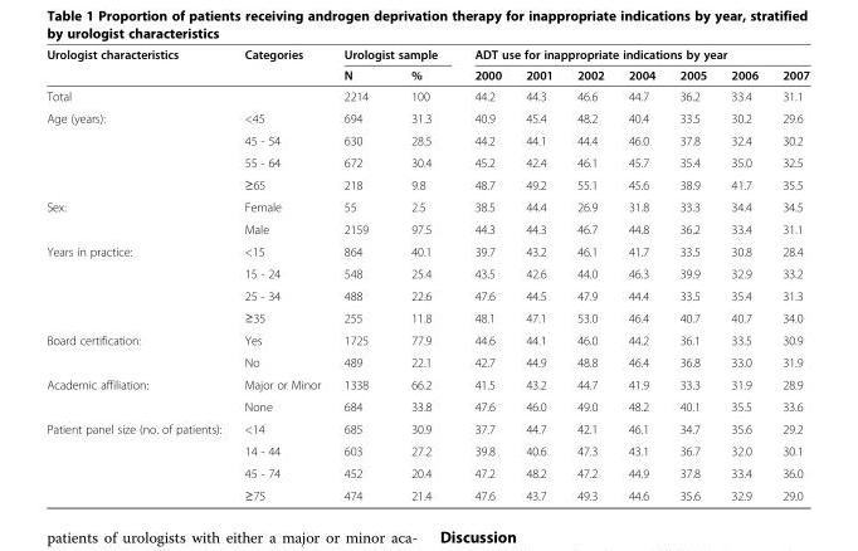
<table><thead><tr><td rowspan="2">Urologist characteristics</td><td rowspan="2">Categories</td><td colspan="2">Urologist sample</td><td colspan="7">ADT use for inappropriate indications by year</td></tr><tr><td>N</td><td>%</td><td>2000</td><td>2001</td><td>2002</td><td>2004</td><td>2005</td><td>2006</td><td>2007</td></tr></thead><tbody><tr><td>Total</td><td></td><td>2214</td><td>100</td><td>44.2</td><td>44.3</td><td>46.6</td><td>44.7</td><td>36.2</td><td>33.4</td><td>31.1</td></tr><tr><td rowspan="4">Age (years):</td><td>&lt;45</td><td>694</td><td>31.3</td><td>40.9</td><td>45.4</td><td>48.2</td><td>40.4</td><td>33.5</td><td>30.2</td><td>29.6</td></tr><tr><td>45 - 54</td><td>630</td><td>28.5</td><td>44.2</td><td>44.1</td><td>44.4</td><td>46.0</td><td>37.8</td><td>32.4</td><td>30.2</td></tr><tr><td>55 - 64</td><td>672</td><td>30.4</td><td>45.2</td><td>42.4</td><td>46.1</td><td>45.7</td><td>35.4</td><td>35.0</td><td>32.5</td></tr><tr><td>≥65</td><td>218</td><td>9.8</td><td>48.7</td><td>49.2</td><td>55.1</td><td>45.6</td><td>38.9</td><td>41.7</td><td>35.5</td></tr><tr><td rowspan="2">Sex:</td><td>Female</td><td>55</td><td>2.5</td><td>38.5</td><td>44.4</td><td>26.9</td><td>31.8</td><td>33.3</td><td>34.4</td><td>34.5</td></tr><tr><td>Male</td><td>2159</td><td>97.5</td><td>44.3</td><td>44.3</td><td>46.7</td><td>44.8</td><td>36.2</td><td>33.4</td><td>31.1</td></tr><tr><td rowspan="4">Years in practice:</td><td>&lt;15</td><td>864</td><td>40.1</td><td>39.7</td><td>43.2</td><td>46.1</td><td>41.7</td><td>33.5</td><td>30.8</td><td>28.4</td></tr><tr><td>15 - 24</td><td>548</td><td>25.4</td><td>43.5</td><td>42.6</td><td>44.0</td><td>46.3</td><td>39.9</td><td>32.9</td><td>33.2</td></tr><tr><td>25 - 34</td><td>488</td><td>22.6</td><td>47.6</td><td>44.5</td><td>47.9</td><td>44.4</td><td>33.5</td><td>35.4</td><td>31.3</td></tr><tr><td>≥35</td><td>255</td><td>11.8</td><td>48.1</td><td>47.1</td><td>53.0</td><td>46.4</td><td>40.7</td><td>40.7</td><td>34.0</td></tr><tr><td rowspan="2">Board certification:</td><td>Yes</td><td>1725</td><td>77.9</td><td>44.6</td><td>44.1</td><td>46.0</td><td>44.2</td><td>36.1</td><td>33.5</td><td>30.9</td></tr><tr><td>No</td><td>489</td><td>22.1</td><td>42.7</td><td>44.9</td><td>48.8</td><td>46.4</td><td>36.8</td><td>33.0</td><td>31.9</td></tr><tr><td rowspan="2">Academic affiliation:</td><td>Major or Minor</td><td>1338</td><td>66.2</td><td>41.5</td><td>43.2</td><td>44.7</td><td>41.9</td><td>33.3</td><td>31.9</td><td>28.9</td></tr><tr><td>None</td><td>684</td><td>33.8</td><td>47.6</td><td>46.0</td><td>49.0</td><td>48.2</td><td>40.1</td><td>35.5</td><td>33.6</td></tr><tr><td rowspan="4">Patient panel size (no. of patients):</td><td>&lt;14</td><td>685</td><td>30.9</td><td>37.7</td><td>44.7</td><td>42.1</td><td>46.1</td><td>34.7</td><td>35.6</td><td>29.2</td></tr><tr><td>14 - 44</td><td>603</td><td>27.2</td><td>39.8</td><td>40.6</td><td>47.3</td><td>43.1</td><td>36.7</td><td>32.0</td><td>30.1</td></tr><tr><td>45 - 74</td><td>452</td><td>20.4</td><td>47.2</td><td>48.2</td><td>47.2</td><td>44.9</td><td>37.8</td><td>33.4</td><td>36.0</td></tr><tr><td>≥75</td><td>474</td><td>21.4</td><td>47.6</td><td>43.7</td><td>49.3</td><td>44.6</td><td>35.6</td><td>32.9</td><td>29.0</td></tr></tbody></table>